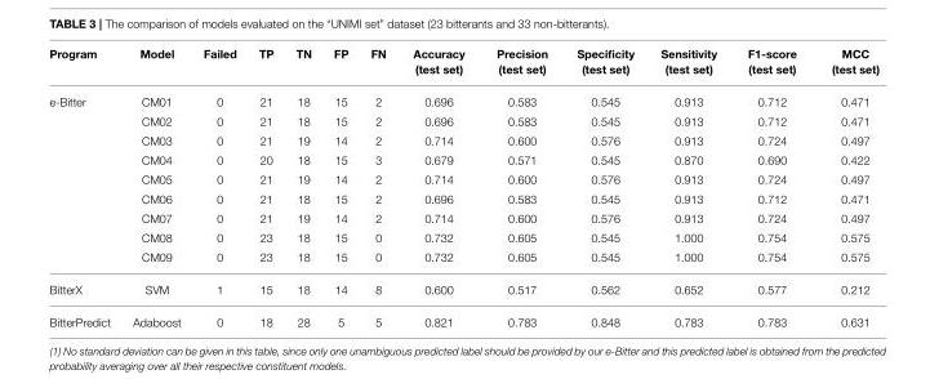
<table><thead><tr><td>Program</td><td>Model</td><td>Failed</td><td>TP</td><td>TN</td><td>FP</td><td>FN</td><td>Accuracy (test set)</td><td>Precision (test set)</td><td>Specificity (test set)</td><td>Sensitivity (test set)</td><td>F1-score (test set)</td><td>MCC (test set)</td></tr></thead><tbody><tr><td rowspan="9">e-Bitter</td><td>CM01</td><td>0</td><td>21</td><td>18</td><td>15</td><td>2</td><td>0.696</td><td>0.583</td><td>0.545</td><td>0.913</td><td>0.712</td><td>0.471</td></tr><tr><td>CM02</td><td>0</td><td>21</td><td>18</td><td>15</td><td>2</td><td>0.696</td><td>0.583</td><td>0.545</td><td>0.913</td><td>0.712</td><td>0.471</td></tr><tr><td>CM03</td><td>0</td><td>21</td><td>19</td><td>14</td><td>2</td><td>0.714</td><td>0.600</td><td>0.576</td><td>0.913</td><td>0.724</td><td>0.497</td></tr><tr><td>CM04</td><td>0</td><td>20</td><td>18</td><td>15</td><td>3</td><td>0.679</td><td>0.571</td><td>0.545</td><td>0.870</td><td>0.690</td><td>0.422</td></tr><tr><td>CM05</td><td>0</td><td>21</td><td>19</td><td>14</td><td>2</td><td>0.714</td><td>0.600</td><td>0.576</td><td>0.913</td><td>0.724</td><td>0.497</td></tr><tr><td>CM06</td><td>0</td><td>21</td><td>18</td><td>15</td><td>2</td><td>0.696</td><td>0.583</td><td>0.545</td><td>0.913</td><td>0.712</td><td>0.471</td></tr><tr><td>CM07</td><td>0</td><td>21</td><td>19</td><td>14</td><td>2</td><td>0.714</td><td>0.600</td><td>0.576</td><td>0.913</td><td>0.724</td><td>0.497</td></tr><tr><td>CM08</td><td>0</td><td>23</td><td>18</td><td>15</td><td>0</td><td>0.732</td><td>0.605</td><td>0.545</td><td>1.000</td><td>0.754</td><td>0.575</td></tr><tr><td>CM09</td><td>0</td><td>23</td><td>18</td><td>15</td><td>0</td><td>0.732</td><td>0.605</td><td>0.545</td><td>1.000</td><td>0.754</td><td>0.575</td></tr><tr><td>BitterX</td><td>SVM</td><td>1</td><td>15</td><td>18</td><td>14</td><td>8</td><td>0.600</td><td>0.517</td><td>0.562</td><td>0.652</td><td>0.577</td><td>0.212</td></tr><tr><td>BitterPredict</td><td>Adaboost</td><td>0</td><td>18</td><td>28</td><td>5</td><td>5</td><td>0.821</td><td>0.783</td><td>0.848</td><td>0.783</td><td>0.783</td><td>0.631</td></tr></tbody></table>